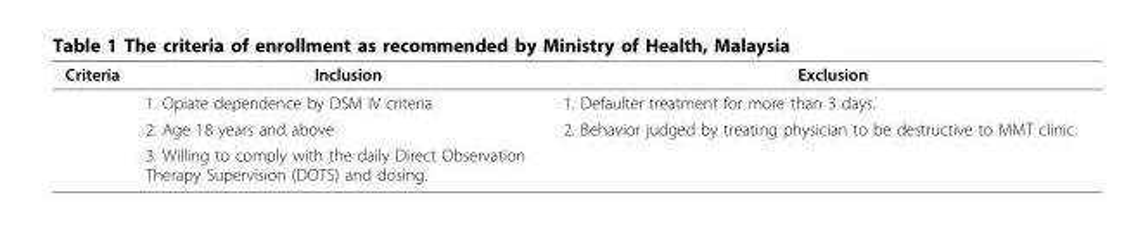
<table><thead><tr><td>Criteria</td><td>Inclusion</td><td>Exclusion</td></tr></thead><tbody><tr><td></td><td>1. Opiate dependence by DSM IV criteria</td><td>1. Defaulter treatment for more than 3 days.</td></tr><tr><td></td><td>2. Age 18 years and above</td><td>2. Behavior judged by treating physician to be destructive to MMT clinic.</td></tr><tr><td></td><td>3. Willing to comply with the daily Direct Observation Therapy Supervision (DOTS) and dosing.</td><td></td></tr></tbody></table>